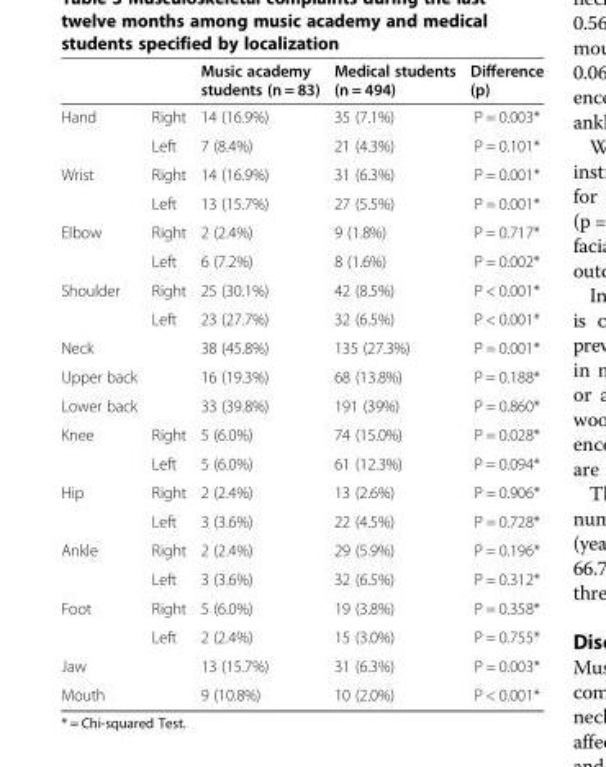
<table><thead><tr><td></td><td></td><td>Music academy students (n = 83)</td><td>Medical students (n = 494)</td><td>Difference (p)</td></tr></thead><tbody><tr><td rowspan="2">Hand</td><td>Right</td><td>14 (16.9%)</td><td>35 (7.1%)</td><td>P = 0.003*</td></tr><tr><td>Left</td><td>7 (8.4%)</td><td>21 (4.3%)</td><td>P = 0.101*</td></tr><tr><td rowspan="2">Wrist</td><td>Right</td><td>14 (16.9%)</td><td>31 (6.3%)</td><td>P = 0.001*</td></tr><tr><td>Left</td><td>13 (15.7%)</td><td>27 (5.5%)</td><td>P = 0.001*</td></tr><tr><td rowspan="2">Elbow</td><td>Right</td><td>2 (2.4%)</td><td>9 (1.8%)</td><td>P = 0.717*</td></tr><tr><td>Left</td><td>6 (7.2%)</td><td>8 (1.6%)</td><td>P = 0.002*</td></tr><tr><td rowspan="2">Shoulder</td><td>Right</td><td>25 (30.1%)</td><td>42 (8.5%)</td><td>P &lt; 0.001*</td></tr><tr><td>Left</td><td>23 (27.7%)</td><td>32 (6.5%)</td><td>P &lt; 0.001*</td></tr><tr><td>Neck</td><td></td><td>38 (45.8%)</td><td>135 (27.3%)</td><td>P = 0.001*</td></tr><tr><td>Upper back</td><td></td><td>16 (19.3%)</td><td>68 (13.8%)</td><td>P = 0.188*</td></tr><tr><td>Lower back</td><td></td><td>33 (39.8%)</td><td>191 (39%)</td><td>P = 0.860*</td></tr><tr><td rowspan="2">Knee</td><td>Right</td><td>5 (6.0%)</td><td>74 (15.0%)</td><td>P = 0.028*</td></tr><tr><td>Left</td><td>5 (6.0%)</td><td>61 (12.3%)</td><td>P = 0.094*</td></tr><tr><td rowspan="2">Hip</td><td>Right</td><td>2 (2.4%)</td><td>13 (2.6%)</td><td>P = 0.906*</td></tr><tr><td>Left</td><td>3 (3.6%)</td><td>22 (4.5%)</td><td>P = 0.728*</td></tr><tr><td rowspan="2">Ankle</td><td>Right</td><td>2 (2.4%)</td><td>29 (5.9%)</td><td>P = 0.196*</td></tr><tr><td>Left</td><td>3 (3.6%)</td><td>32 (6.5%)</td><td>P = 0.312*</td></tr><tr><td rowspan="2">Foot</td><td>Right</td><td>5 (6.0%)</td><td>19 (3.8%)</td><td>P = 0.358*</td></tr><tr><td>Left</td><td>2 (2.4%)</td><td>15 (3.0%)</td><td>P = 0.755*</td></tr><tr><td>Jaw</td><td></td><td>13 (15.7%)</td><td>31 (6.3%)</td><td>P = 0.003*</td></tr><tr><td>Mouth</td><td></td><td>9 (10.8%)</td><td>10 (2.0%)</td><td>P &lt; 0.001*</td></tr></tbody></table>